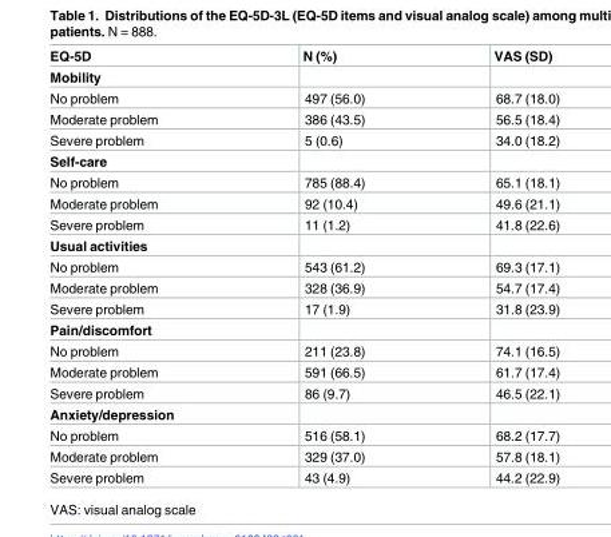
<table><thead><tr><td>EQ-5D</td><td>N (%)</td><td>VAS (SD)</td></tr></thead><tbody><tr><td colspan="3">Mobility</td></tr><tr><td>No problem</td><td>497 (56.0)</td><td>68.7 (18.0)</td></tr><tr><td>Moderate problem</td><td>386 (43.5)</td><td>56.5 (18.4)</td></tr><tr><td>Severe problem</td><td>5 (0.6)</td><td>34.0 (18.2)</td></tr><tr><td colspan="3">Self-care</td></tr><tr><td>No problem</td><td>785 (88.4)</td><td>65.1 (18.1)</td></tr><tr><td>Moderate problem</td><td>92 (10.4)</td><td>49.6 (21.1)</td></tr><tr><td>Severe problem</td><td>11 (1.2)</td><td>41.8 (22.6)</td></tr><tr><td colspan="3">Usual activities</td></tr><tr><td>No problem</td><td>543 (61.2)</td><td>69.3 (17.1)</td></tr><tr><td>Moderate problem</td><td>328 (36.9)</td><td>54.7 (17.4)</td></tr><tr><td>Severe problem</td><td>17 (1.9)</td><td>31.8 (23.9)</td></tr><tr><td colspan="3">Pain/discomfort</td></tr><tr><td>No problem</td><td>211 (23.8)</td><td>74.1 (16.5)</td></tr><tr><td>Moderate problem</td><td>591 (66.5)</td><td>61.7 (17.4)</td></tr><tr><td>Severe problem</td><td>86 (9.7)</td><td>46.5 (22.1)</td></tr><tr><td colspan="3">Anxiety/depression</td></tr><tr><td>No problem</td><td>516 (58.1)</td><td>68.2 (17.7)</td></tr><tr><td>Moderate problem</td><td>329 (37.0)</td><td>57.8 (18.1)</td></tr><tr><td>Severe problem</td><td>43 (4.9)</td><td>44.2 (22.9)</td></tr></tbody></table>